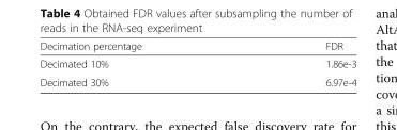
<table><thead><tr><td>Decimation percentage</td><td>FDR</td></tr></thead><tbody><tr><td>Decimated 10%</td><td>1.86e-3</td></tr><tr><td>Decimated 30%</td><td>6.97e-4</td></tr></tbody></table>